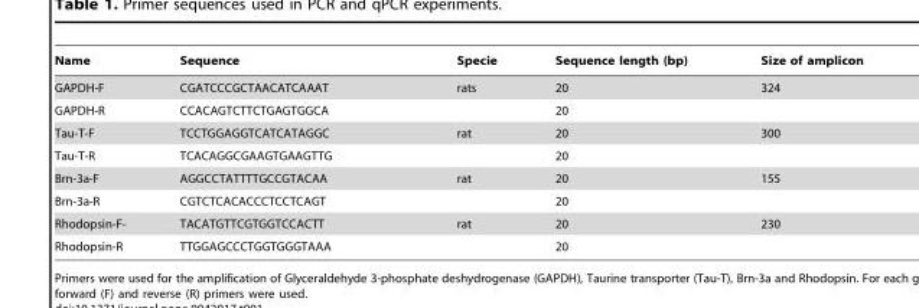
<table><thead><tr><td>Name</td><td>Sequence</td><td>Specie</td><td>Sequence length (bp)</td><td>Size of amplicon</td></tr></thead><tbody><tr><td>GAPDH-F</td><td>CGATCCCGCTAACATCAAAT</td><td>rats</td><td>20</td><td>324</td></tr><tr><td>GAPDH-R</td><td>CCACAGTCTTCTGAGTGGCA</td><td></td><td>20</td><td></td></tr><tr><td>Tau-T-F</td><td>TCCTGGAGGTCATCATAGGC</td><td>rat</td><td>20</td><td>300</td></tr><tr><td>Tau-T-R</td><td>TCACAGGCGAAGTGAAGTTG</td><td></td><td>20</td><td></td></tr><tr><td>Brn-3a-F</td><td>AGGCCTATTTTGCCGTACAA</td><td>rat</td><td>20</td><td>155</td></tr><tr><td>Brn-3a-R</td><td>CGTCTCACACCCTCCTCAGT</td><td></td><td>20</td><td></td></tr><tr><td>Rhodopsin-F-</td><td>TACATGTTCGTGGTCCACTT</td><td>rat</td><td>20</td><td>230</td></tr><tr><td>Rhodopsin-R</td><td>TTGGAGCCCTGGTGGGTAAA</td><td></td><td>20</td><td></td></tr></tbody></table>